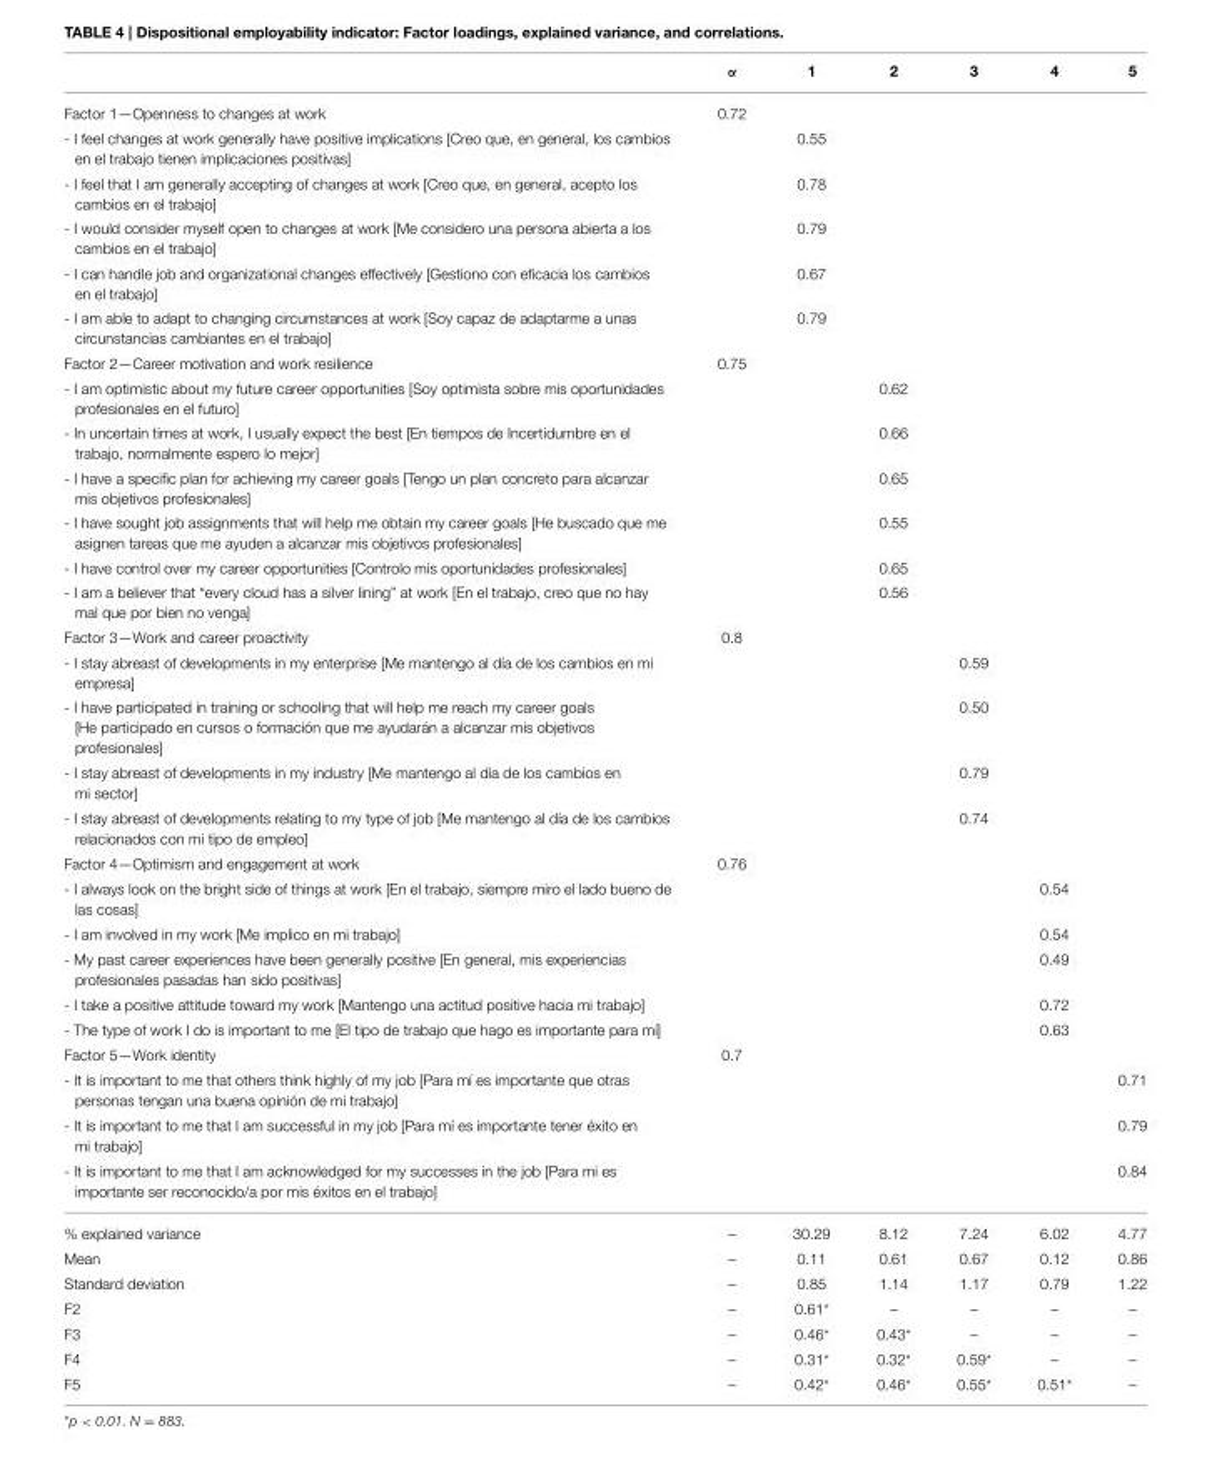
<table><thead><tr><td></td><td>α</td><td>1</td><td>2</td><td>3</td><td>4</td><td>5</td></tr></thead><tbody><tr><td>Factor 1—Openness to changes at work</td><td>0.72</td><td></td><td></td><td></td><td></td><td></td></tr><tr><td>- I feel changes at work generally have positive implications [Creo que, en general, los cambios en el trabajo tienen implicaciones positivas]</td><td></td><td>0.55</td><td></td><td></td><td></td><td></td></tr><tr><td>- I feel that I am generally accepting of changes at work [Creo que, en general, acepto los cambios en el trabajo]</td><td></td><td>0.78</td><td></td><td></td><td></td><td></td></tr><tr><td>- I would consider myself open to changes at work [Me considero una persona abierta a los cambios en el trabajo]</td><td></td><td>0.79</td><td></td><td></td><td></td><td></td></tr><tr><td>- I can handle job and organizational changes effectively [Gestiono con eficacia los cambios en el trabajo]</td><td></td><td>0.67</td><td></td><td></td><td></td><td></td></tr><tr><td>- I am able to adapt to changing circumstances at work [Soy capaz de adaptarme a unas circunstancias cambiantes en el trabajo]</td><td></td><td>0.79</td><td></td><td></td><td></td><td></td></tr><tr><td>Factor 2—Career motivation and work resilience</td><td>0.75</td><td></td><td></td><td></td><td></td><td></td></tr><tr><td>- I am optimistic about my future career opportunities [Soy optimista sobre mis oportunidades profesionales en el futuro]</td><td></td><td></td><td>0.62</td><td></td><td></td><td></td></tr><tr><td>- In uncertain times at work, I usually expect the best [En tiempos de Incertidumbre en el trabajo, normalmente espero lo mejor]</td><td></td><td></td><td>0.66</td><td></td><td></td><td></td></tr><tr><td>- I have a specific plan for achieving my career goals [Tengo un plan concreto para alcanzar mis objetivos profesionales]</td><td></td><td></td><td>0.65</td><td></td><td></td><td></td></tr><tr><td>- I have sought job assignments that will help me obtain my career goals [He buscado que me asignen tareas que me ayuden a alcanzar mis objetivos profesionales]</td><td></td><td></td><td>0.55</td><td></td><td></td><td></td></tr><tr><td>- I have control over my career opportunities [Controlo mis oportunidades profesionales]</td><td></td><td></td><td>0.65</td><td></td><td></td><td></td></tr><tr><td>- I am a believer that “every cloud has a silver lining” at work [En el trabajo, creo que no hay mal que por bien no venga]</td><td></td><td></td><td>0.56</td><td></td><td></td><td></td></tr><tr><td>Factor 3—Work and career proactivity</td><td>0.8</td><td></td><td></td><td></td><td></td><td></td></tr><tr><td>- I stay abreast of developments in my enterprise [Me mantengo al día de los cambios en mi empresa]</td><td></td><td></td><td></td><td>0.59</td><td></td><td></td></tr><tr><td>- I have participated in training or schooling that will help me reach my career goals [He participado en cursos o formación que me ayudarán a alcanzar mis objetivos profesionales]</td><td></td><td></td><td></td><td>0.50</td><td></td><td></td></tr><tr><td>- I stay abreast of developments in my industry [Me mantengo al día de los cambios en mi sector]</td><td></td><td></td><td></td><td>0.79</td><td></td><td></td></tr><tr><td>- I stay abreast of developments relating to my type of job [Me mantengo al día de los cambios relacionados con mi tipo de empleo]</td><td></td><td></td><td></td><td>0.74</td><td></td><td></td></tr><tr><td>Factor 4—Optimism and engagement at work</td><td>0.76</td><td></td><td></td><td></td><td></td><td></td></tr><tr><td>- I always look on the bright side of things at work [En el trabajo, siempre miro el lado bueno de las cosas]</td><td></td><td></td><td></td><td></td><td>0.54</td><td></td></tr><tr><td>- I am involved in my work [Me implico en mi trabajo]</td><td></td><td></td><td></td><td></td><td>0.54</td><td></td></tr><tr><td>- My past career experiences have been generally positive [En general, mis experiencias profesionales pasadas han sido positivas]</td><td></td><td></td><td></td><td></td><td>0.49</td><td></td></tr><tr><td>- I take a positive attitude toward my work [Mantengo una actitud positive hacia mi trabajo]</td><td></td><td></td><td></td><td></td><td>0.72</td><td></td></tr><tr><td>- The type of work I do is important to me [El tipo de trabajo que hago es importante para mí]</td><td></td><td></td><td></td><td></td><td>0.63</td><td></td></tr><tr><td>Factor 5—Work identity</td><td>0.7</td><td></td><td></td><td></td><td></td><td></td></tr><tr><td>- It is important to me that others think highly of my job [Para mí es importante que otras personas tengan una buena opinión de mi trabajo]</td><td></td><td></td><td></td><td></td><td></td><td>0.71</td></tr><tr><td>- It is important to me that I am successful in my job [Para mí es importante tener éxito en mi trabajo]</td><td></td><td></td><td></td><td></td><td></td><td>0.79</td></tr><tr><td>- It is important to me that I am acknowledged for my successes in the job [Para mi es importante ser reconocido/a por mis éxitos en el trabajo]</td><td></td><td></td><td></td><td></td><td></td><td>0.84</td></tr><tr><td>% explained variance</td><td>–</td><td>30.29</td><td>8.12</td><td>7.24</td><td>6.02</td><td>4.77</td></tr><tr><td>Mean</td><td>–</td><td>0.11</td><td>0.61</td><td>0.67</td><td>0.12</td><td>0.86</td></tr><tr><td>Standard deviation</td><td>–</td><td>0.85</td><td>1.14</td><td>1.17</td><td>0.79</td><td>1.22</td></tr><tr><td>F2</td><td>–</td><td>0.61*</td><td>–</td><td>–</td><td>–</td><td>–</td></tr><tr><td>F3</td><td>–</td><td>0.46*</td><td>0.43*</td><td>–</td><td>–</td><td>–</td></tr><tr><td>F4</td><td>–</td><td>0.31*</td><td>0.32*</td><td>0.59*</td><td>–</td><td>–</td></tr><tr><td>F5</td><td>–</td><td>0.42*</td><td>0.46*</td><td>0.55*</td><td>0.51*</td><td>–</td></tr></tbody></table>